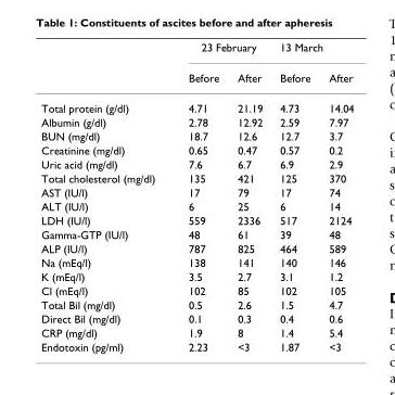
<table><thead><tr><td rowspan="2"></td><td colspan="2">23 February</td><td colspan="2">13 March</td></tr><tr><td>Before</td><td>After</td><td>Before</td><td>After</td></tr></thead><tbody><tr><td>Total protein (g/dl)</td><td>4.71</td><td>21.19</td><td>4.73</td><td>14.04</td></tr><tr><td>Albumin (g/dl)</td><td>2.78</td><td>12.92</td><td>2.59</td><td>7.97</td></tr><tr><td>BUN (mg/dl)</td><td>18.7</td><td>12.6</td><td>12.7</td><td>3.7</td></tr><tr><td>Creatinine (mg/dl)</td><td>0.65</td><td>0.47</td><td>0.57</td><td>0.2</td></tr><tr><td>Uric acid (mg/dl)</td><td>7.6</td><td>6.7</td><td>6.9</td><td>2.9</td></tr><tr><td>Total cholesterol (mg/dl)</td><td>135</td><td>421</td><td>125</td><td>370</td></tr><tr><td>AST (IU/l)</td><td>17</td><td>79</td><td>17</td><td>74</td></tr><tr><td>ALT (IU/l)</td><td>6</td><td>25</td><td>6</td><td>14</td></tr><tr><td>LDH (IU/l)</td><td>559</td><td>2336</td><td>517</td><td>2124</td></tr><tr><td>Gamma-GTP (IU/l)</td><td>48</td><td>61</td><td>39</td><td>48</td></tr><tr><td>ALP (IU/l)</td><td>787</td><td>825</td><td>464</td><td>589</td></tr><tr><td>Na (mEq/l)</td><td>138</td><td>141</td><td>140</td><td>146</td></tr><tr><td>K (mEq/l)</td><td>3.5</td><td>2.7</td><td>3.1</td><td>1.2</td></tr><tr><td>Cl (mEq/l)</td><td>102</td><td>85</td><td>102</td><td>105</td></tr><tr><td>Total Bil (mg/dl)</td><td>0.5</td><td>2.6</td><td>1.5</td><td>4.7</td></tr><tr><td>Direct Bil (mg/dl)</td><td>0.1</td><td>0.3</td><td>0.4</td><td>0.6</td></tr><tr><td>CRP (mg/dl)</td><td>1.9</td><td>8</td><td>1.4</td><td>5.4</td></tr><tr><td>Endotoxin (pg/ml)</td><td>2.23</td><td>&lt;3</td><td>1.87</td><td>&lt;3</td></tr></tbody></table>